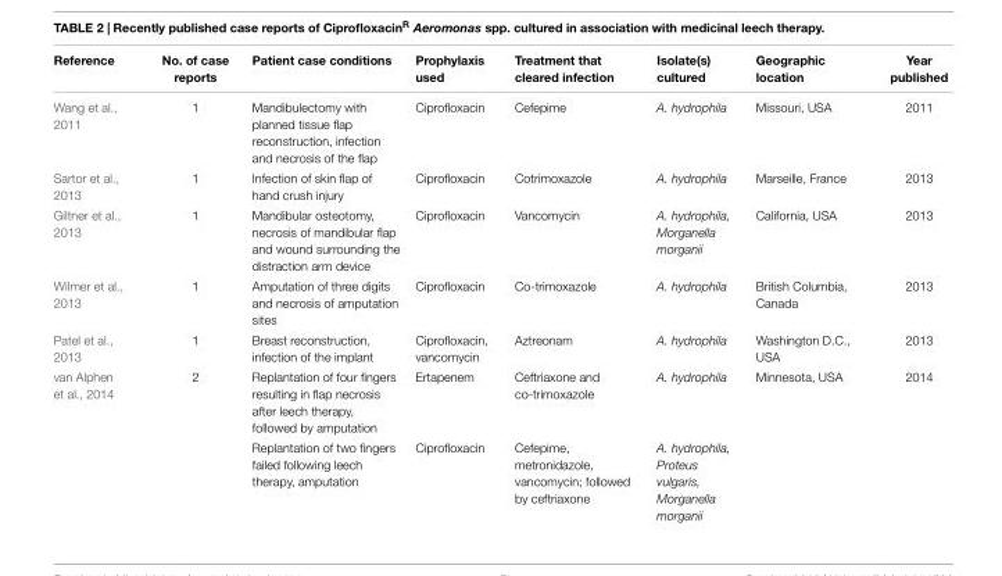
<table><thead><tr><td>Reference</td><td>No. of case reports</td><td>Patient case conditions</td><td>Prophylaxis used</td><td>Treatment that cleared infection</td><td>Isolate(s) cultured</td><td>Geographic location</td><td>Year published</td></tr></thead><tbody><tr><td>Wang et al., 2011</td><td>1</td><td>Mandibulectomy with planned tissue flap reconstruction, infection and necrosis of the flap</td><td>Ciprofloxacin</td><td>Cefepime</td><td>A. hydrophila</td><td>Missouri, USA</td><td>2011</td></tr><tr><td>Sartor et al., 2013</td><td>1</td><td>Infection of skin flap of hand crush injury</td><td>Ciprofloxacin</td><td>Cotrimoxazole</td><td>A. hydrophila</td><td>Marseille, France</td><td>2013</td></tr><tr><td>Giltner et al., 2013</td><td>1</td><td>Mandibular osteotomy, necrosis of mandibular flap and wound surrounding the distraction arm device</td><td>Ciprofloxacin</td><td>Vancomycin</td><td>A. hydrophila, Morganella morganii</td><td>California, USA</td><td>2013</td></tr><tr><td>Wilmer et al., 2013</td><td>1</td><td>Amputation of three digits and necrosis of amputation sites</td><td>Ciprofloxacin</td><td>Co-trimoxazole</td><td>A. hydrophila</td><td>British Columbia, Canada</td><td>2013</td></tr><tr><td>Patel et al., 2013</td><td>1</td><td>Breast reconstruction, infection of the implant</td><td>Ciprofloxacin, vancomycin</td><td>Aztreonam</td><td>A. hydrophila</td><td>Washington D.C., USA</td><td>2013</td></tr><tr><td rowspan="2">van Alphen et al., 2014</td><td>2</td><td>Replantation of four fingers resulting in flap necrosis after leech therapy, followed by amputation</td><td>Ertapenem</td><td>Ceftriaxone and co-trimoxazole</td><td>A. hydrophila</td><td>Minnesota, USA</td><td>2014</td></tr><tr><td></td><td>Replantation of two fingers failed following leech therapy, amputation</td><td>Ciprofloxacin</td><td>Cefepime, metronidazole, vancomycin; followed by ceftriaxone</td><td>A. hydrophila, Proteus vulgaris, Morganella morganii</td><td></td><td></td></tr></tbody></table>